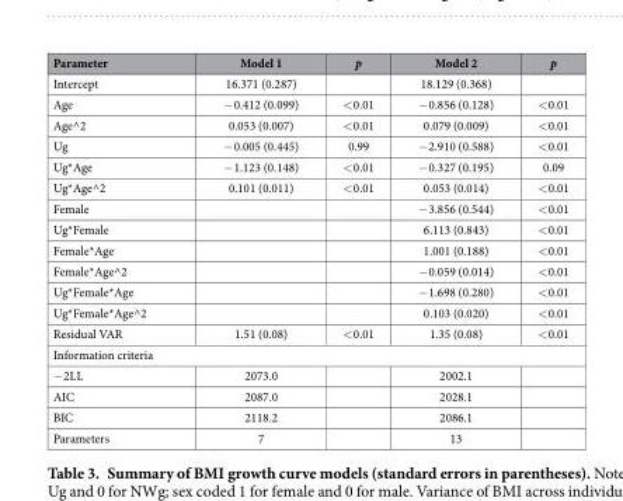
<table><thead><tr><td>Parameter</td><td>Model 1</td><td>p</td><td>Model 2</td><td>p</td></tr></thead><tbody><tr><td>Intercept</td><td>16.371 (0.287)</td><td></td><td>18.129 (0.368)</td><td></td></tr><tr><td>Age</td><td>− 0.412 (0.099)</td><td>&lt; 0.01</td><td>− 0.856 (0.128)</td><td>&lt; 0.01</td></tr><tr><td>Age^2</td><td>0.053 (0.007)</td><td>&lt; 0.01</td><td>0.079 (0.009)</td><td>&lt; 0.01</td></tr><tr><td>Ug</td><td>− 0.005 (0.445)</td><td>0.99</td><td>− 2.910 (0.588)</td><td>&lt; 0.01</td></tr><tr><td>Ug*Age</td><td>− 1.123 (0.148)</td><td>&lt; 0.01</td><td>− 0.327 (0.195)</td><td>0.09</td></tr><tr><td>Ug*Age^2</td><td>0.101 (0.011)</td><td>&lt; 0.01</td><td>0.053 (0.014)</td><td>&lt; 0.01</td></tr><tr><td>Female</td><td></td><td></td><td>− 3.856 (0.544)</td><td>&lt; 0.01</td></tr><tr><td>Ug*Female</td><td></td><td></td><td>6.113 (0.843)</td><td>&lt; 0.01</td></tr><tr><td>Female*Age</td><td></td><td></td><td>1.001 (0.188)</td><td>&lt; 0.01</td></tr><tr><td>Female*Age^2</td><td></td><td></td><td>− 0.059 (0.014)</td><td>&lt; 0.01</td></tr><tr><td>Ug*Female*Age</td><td></td><td></td><td>− 1.698 (0.280)</td><td>&lt; 0.01</td></tr><tr><td>Ug*Female*Age^2</td><td></td><td></td><td>0.103 (0.020)</td><td>&lt; 0.01</td></tr><tr><td>Residual VAR</td><td>1.51 (0.08)</td><td>&lt; 0.01</td><td>1.35 (0.08)</td><td>&lt; 0.01</td></tr><tr><td colspan="5">Information criteria</td></tr><tr><td>− 2LL</td><td>2073.0</td><td></td><td>2002.1</td><td></td></tr><tr><td>AIC</td><td>2087.0</td><td></td><td>2028.1</td><td></td></tr><tr><td>BIC</td><td>2118.2</td><td></td><td>2086.1</td><td></td></tr><tr><td>Parameters</td><td>7</td><td></td><td>13</td><td></td></tr></tbody></table>